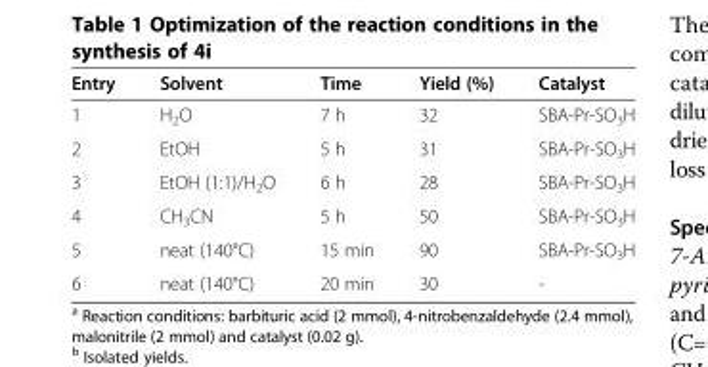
<table><thead><tr><td>Entry</td><td>Solvent</td><td>Time</td><td>Yield (%)</td><td>Catalyst</td></tr></thead><tbody><tr><td>1</td><td>H<sub>2</sub>O</td><td>7 h</td><td>32</td><td>SBA-Pr-SO<sub>3</sub>H</td></tr><tr><td>2</td><td>EtOH</td><td>5 h</td><td>31</td><td>SBA-Pr-SO<sub>3</sub>H</td></tr><tr><td>3</td><td>EtOH (1:1)/H<sub>2</sub>O</td><td>6 h</td><td>28</td><td>SBA-Pr-SO<sub>3</sub>H</td></tr><tr><td>4</td><td>CH<sub>3</sub>CN</td><td>5 h</td><td>50</td><td>SBA-Pr-SO<sub>3</sub>H</td></tr><tr><td>5</td><td>neat (140°C)</td><td>15 min</td><td>90</td><td>SBA-Pr-SO<sub>3</sub>H</td></tr><tr><td>6</td><td>neat (140°C)</td><td>20 min</td><td>30</td><td>-</td></tr></tbody></table>